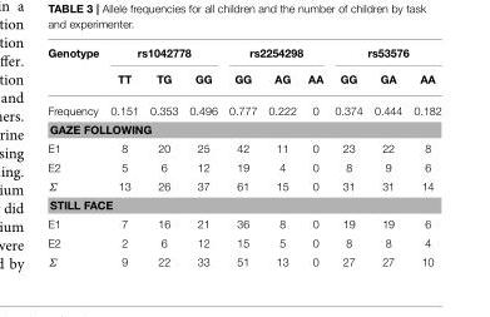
<table><thead><tr><td rowspan="2">Genotype</td><td colspan="3">rs1042778</td><td colspan="3">rs2254298</td><td colspan="3">rs53576</td></tr><tr><td>TT</td><td>TG</td><td>GG</td><td>GG</td><td>AG</td><td>AA</td><td>GG</td><td>GA</td><td>AA</td></tr></thead><tbody><tr><td>Frequency</td><td>0.151</td><td>0.353</td><td>0.496</td><td>0.777</td><td>0.222</td><td>0</td><td>0.374</td><td>0.444</td><td>0.182</td></tr><tr><td colspan="10">GAZE FOLLOWING</td></tr><tr><td>E1</td><td>8</td><td>20</td><td>25</td><td>42</td><td>11</td><td>0</td><td>23</td><td>22</td><td>8</td></tr><tr><td>E2</td><td>5</td><td>6</td><td>12</td><td>19</td><td>4</td><td>0</td><td>8</td><td>9</td><td>6</td></tr><tr><td>Σ</td><td>13</td><td>26</td><td>37</td><td>61</td><td>15</td><td>0</td><td>31</td><td>31</td><td>14</td></tr><tr><td colspan="10">STILL FACE</td></tr><tr><td>E1</td><td>7</td><td>16</td><td>21</td><td>36</td><td>8</td><td>0</td><td>19</td><td>19</td><td>6</td></tr><tr><td>E2</td><td>2</td><td>6</td><td>12</td><td>15</td><td>5</td><td>0</td><td>8</td><td>8</td><td>4</td></tr><tr><td>Σ</td><td>9</td><td>22</td><td>33</td><td>51</td><td>13</td><td>0</td><td>27</td><td>27</td><td>10</td></tr></tbody></table>